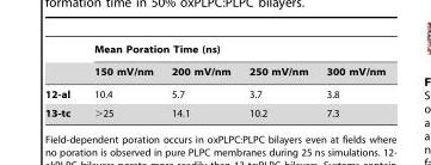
<table><thead><tr><td rowspan="2"></td><td colspan="4">Mean Poration Time (ns)</td></tr><tr><td>150 mV/nm</td><td>200 mV/nm</td><td>250 mV/nm</td><td>300 mV/nm</td></tr></thead><tbody><tr><td>12-al</td><td>10.4</td><td>5.7</td><td>3.7</td><td>3.8</td></tr><tr><td>13-tc</td><td>&gt;25</td><td>14.1</td><td>10.2</td><td>7.3</td></tr></tbody></table>